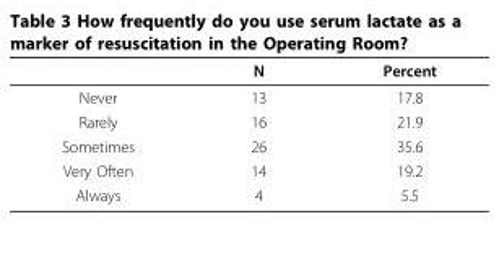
<table><thead><tr><td></td><td>N</td><td>Percent</td></tr></thead><tbody><tr><td>Never</td><td>13</td><td>17.8</td></tr><tr><td>Rarely</td><td>16</td><td>21.9</td></tr><tr><td>Sometimes</td><td>26</td><td>35.6</td></tr><tr><td>Very Often</td><td>14</td><td>19.2</td></tr><tr><td>Always</td><td>4</td><td>5.5</td></tr></tbody></table>